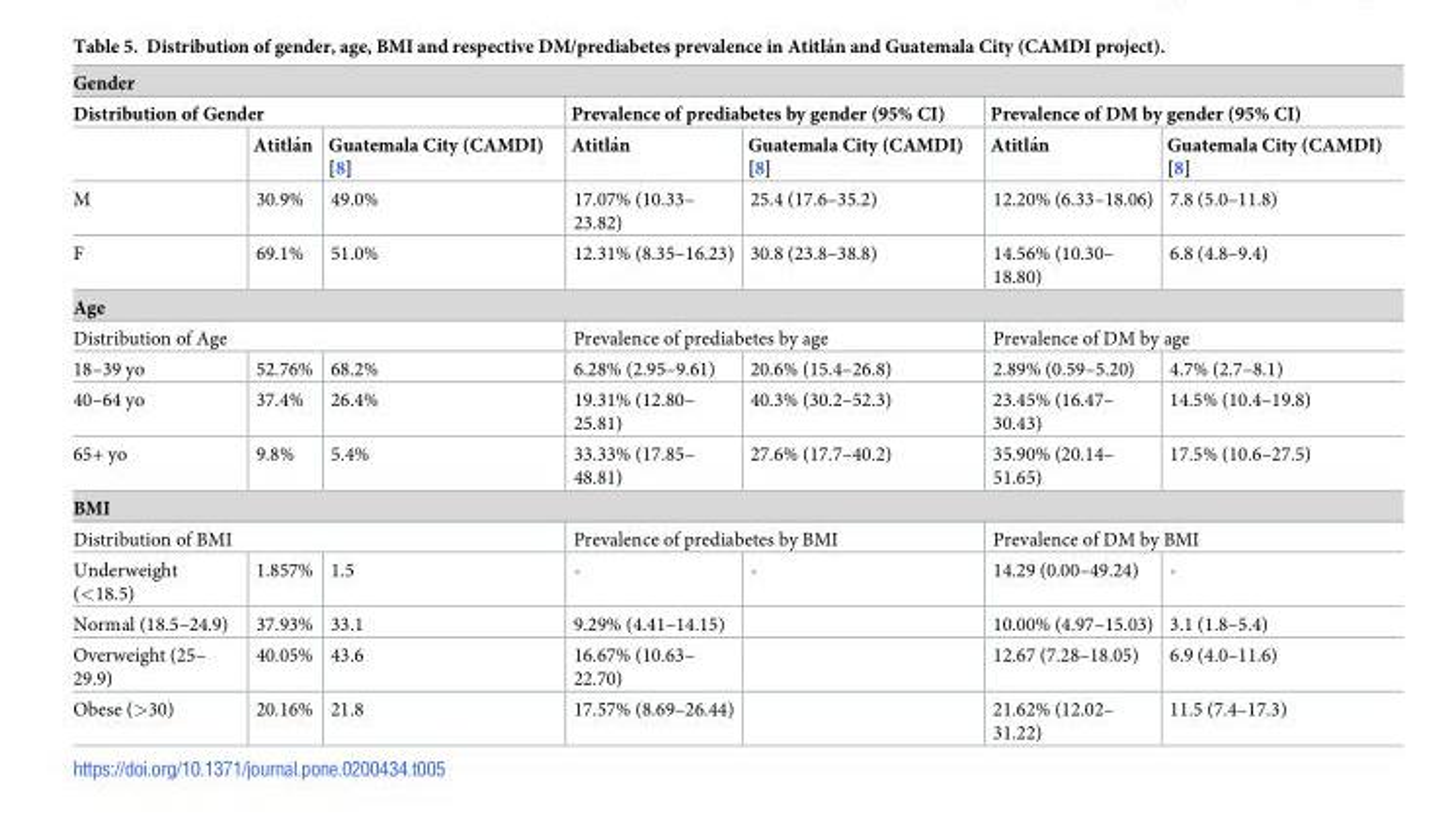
<table><thead><tr><td colspan="7">Gender</td></tr><tr><td colspan="3">Distribution of Gender</td><td colspan="2">Prevalence of prediabetes by gender (95% CI)</td><td colspan="2">Prevalence of DM by gender (95% CI)</td></tr><tr><td></td><td>Atitla´n</td><td>Guatemala City (CAMDI) [8]</td><td>Atitla´n</td><td>Guatemala City (CAMDI) [8]</td><td>Atitla´n</td><td>Guatemala City (CAMDI) [8]</td></tr></thead><tbody><tr><td>M</td><td>30.9%</td><td>49.0%</td><td>17.07% (10.33– 23.82)</td><td>25.4 (17.6–35.2)</td><td>12.20% (6.33–18.06)</td><td>7.8 (5.0–11.8)</td></tr><tr><td>F</td><td>69.1%</td><td>51.0%</td><td>12.31% (8.35–16.23)</td><td>30.8 (23.8–38.8)</td><td>14.56% (10.30– 18.80)</td><td>6.8 (4.8–9.4)</td></tr><tr><td colspan="7">Age</td></tr><tr><td colspan="3">Distribution of Age</td><td colspan="2">Prevalence of prediabetes by age</td><td colspan="2">Prevalence of DM by age</td></tr><tr><td>18–39 yo</td><td>52.76%</td><td>68.2%</td><td>6.28% (2.95–9.61)</td><td>20.6% (15.4–26.8)</td><td>2.89% (0.59–5.20)</td><td>4.7% (2.7–8.1)</td></tr><tr><td>40–64 yo</td><td>37.4%</td><td>26.4%</td><td>19.31% (12.80– 25.81)</td><td>40.3% (30.2–52.3)</td><td>23.45% (16.47– 30.43)</td><td>14.5% (10.4–19.8)</td></tr><tr><td>65+ yo</td><td>9.8%</td><td>5.4%</td><td>33.33% (17.85– 48.81)</td><td>27.6% (17.7–40.2)</td><td>35.90% (20.14– 51.65)</td><td>17.5% (10.6–27.5)</td></tr><tr><td colspan="7">BMI</td></tr><tr><td colspan="3">Distribution of BMI</td><td colspan="2">Prevalence of prediabetes by BMI</td><td colspan="2">Prevalence of DM by BMI</td></tr><tr><td>Underweight (&lt;18.5)</td><td>1.857%</td><td>1.5</td><td>-</td><td>-</td><td>14.29 (0.00–49.24)</td><td>-</td></tr><tr><td>Normal (18.5–24.9)</td><td>37.93%</td><td>33.1</td><td>9.29% (4.41–14.15)</td><td></td><td>10.00% (4.97–15.03)</td><td>3.1 (1.8–5.4)</td></tr><tr><td>Overweight (25– 29.9)</td><td>40.05%</td><td>43.6</td><td>16.67% (10.63– 22.70)</td><td></td><td>12.67 (7.28–18.05)</td><td>6.9 (4.0–11.6)</td></tr><tr><td>Obese (&gt;30)</td><td>20.16%</td><td>21.8</td><td>17.57% (8.69–26.44)</td><td></td><td>21.62% (12.02– 31.22)</td><td>11.5 (7.4–17.3)</td></tr></tbody></table>